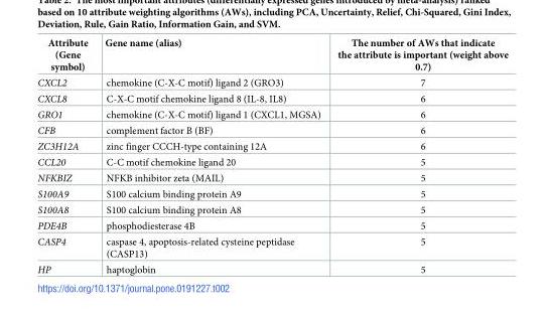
<table><thead><tr><td>Attribute (Gene symbol)</td><td>Gene name (alias)</td><td>The number of AWs that indicate the attribute is important (weight above 0.7)</td></tr></thead><tbody><tr><td>CXCL2</td><td>chemokine (C-X-C motif) ligand 2 (GRO3)</td><td>7</td></tr><tr><td>CXCL8</td><td>C-X-C motif chemokine ligand 8 (IL-8, IL8)</td><td>6</td></tr><tr><td>GRO1</td><td>chemokine (C-X-C motif) ligand 1 (CXCL1, MGSA)</td><td>6</td></tr><tr><td>CFB</td><td>complement factor B (BF)</td><td>6</td></tr><tr><td>ZC3H12A</td><td>zinc finger CCCH-type containing 12A</td><td>6</td></tr><tr><td>CCL20</td><td>C-C motif chemokine ligand 20</td><td>5</td></tr><tr><td>NFKBIZ</td><td>NFKB inhibitor zeta (MAIL)</td><td>5</td></tr><tr><td>S100A9</td><td>S100 calcium binding protein A9</td><td>5</td></tr><tr><td>S100A8</td><td>S100 calcium binding protein A8</td><td>5</td></tr><tr><td>PDE4B</td><td>phosphodiesterase 4B</td><td>5</td></tr><tr><td>CASP4</td><td>caspase 4, apoptosis-related cysteine peptidase (CASP13)</td><td>5</td></tr><tr><td>HP</td><td>haptoglobin</td><td>5</td></tr></tbody></table>